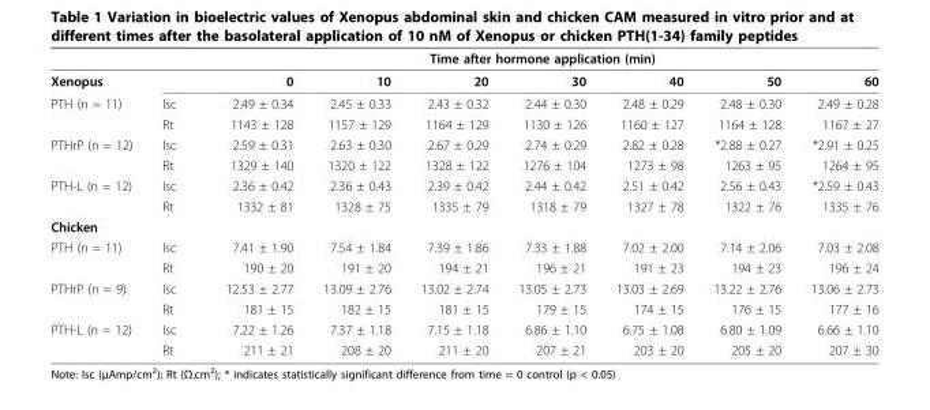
<table><thead><tr><td rowspan="2">Xenopus</td><td rowspan="2"></td><td colspan="7">Time after hormone application (min)</td></tr><tr><td>0</td><td>10</td><td>20</td><td>30</td><td>40</td><td>50</td><td>60</td></tr></thead><tbody><tr><td rowspan="2">PTH (n = 11)</td><td>Isc</td><td>2.49 ± 0.34</td><td>2.45 ± 0.33</td><td>2.43 ± 0.32</td><td>2.44 ± 0.30</td><td>2.48 ± 0.29</td><td>2.48 ± 0.30</td><td>2.49 ± 0.28</td></tr><tr><td>Rt</td><td>1143 ± 128</td><td>1157 ± 129</td><td>1164 ± 129</td><td>1130 ± 126</td><td>1160 ± 127</td><td>1164 ± 128</td><td>1167 ± 27</td></tr><tr><td rowspan="2">PTHrP (n = 12)</td><td>Isc</td><td>2.59 ± 0.31</td><td>2.63 ± 0.30</td><td>2.67 ± 0.29</td><td>2.74 ± 0.29</td><td>2.82 ± 0.28</td><td>*2.88 ± 0.27</td><td>*2.91 ± 0.25</td></tr><tr><td>Rt</td><td>1329 ± 140</td><td>1320 ± 122</td><td>1328 ± 122</td><td>1276 ± 104</td><td>1273 ± 98</td><td>1263 ± 95</td><td>1264 ± 95</td></tr><tr><td rowspan="2">PTH-L (n = 12)</td><td>Isc</td><td>2.36 ± 0.42</td><td>2.36 ± 0.43</td><td>2.39 ± 0.42</td><td>2.44 ± 0.42</td><td>2.51 ± 0.42</td><td>2.56 ± 0.43</td><td>*2.59 ± 0.43</td></tr><tr><td>Rt</td><td>1332 ± 81</td><td>1328 ± 75</td><td>1335 ± 79</td><td>1318 ± 79</td><td>1327 ± 78</td><td>1322 ± 76</td><td>1335 ± 76</td></tr><tr><td colspan="9">Chicken</td></tr><tr><td rowspan="2">PTH (n = 11)</td><td>Isc</td><td>7.41 ± 1.90</td><td>7.54 ± 1.84</td><td>7.39 ± 1.86</td><td>7.33 ± 1.88</td><td>7.02 ± 2.00</td><td>7.14 ± 2.06</td><td>7.03 ± 2.08</td></tr><tr><td>Rt</td><td>190 ± 20</td><td>191 ± 20</td><td>194 ± 21</td><td>196 ± 21</td><td>191 ± 23</td><td>194 ± 23</td><td>196 ± 24</td></tr><tr><td rowspan="2">PTHrP (n = 9)</td><td>Isc</td><td>12.53 ± 2.77</td><td>13.09 ± 2.76</td><td>13.02 ± 2.74</td><td>13.05 ± 2.73</td><td>13.03 ± 2.69</td><td>13.22 ± 2.76</td><td>13.06 ± 2.73</td></tr><tr><td>Rt</td><td>181 ± 15</td><td>182 ± 15</td><td>181 ± 15</td><td>179 ± 15</td><td>174 ± 15</td><td>176 ± 15</td><td>177 ± 16</td></tr><tr><td rowspan="2">PTH-L (n = 12)</td><td>Isc</td><td>7.22 ± 1.26</td><td>7.37 ± 1.18</td><td>7.15 ± 1.18</td><td>6.86 ± 1.10</td><td>6.75 ± 1.08</td><td>6.80 ± 1.09</td><td>6.66 ± 1.10</td></tr><tr><td>Rt</td><td>211 ± 21</td><td>208 ± 20</td><td>211 ± 20</td><td>207 ± 21</td><td>203 ± 20</td><td>205 ± 20</td><td>207 ± 30</td></tr></tbody></table>